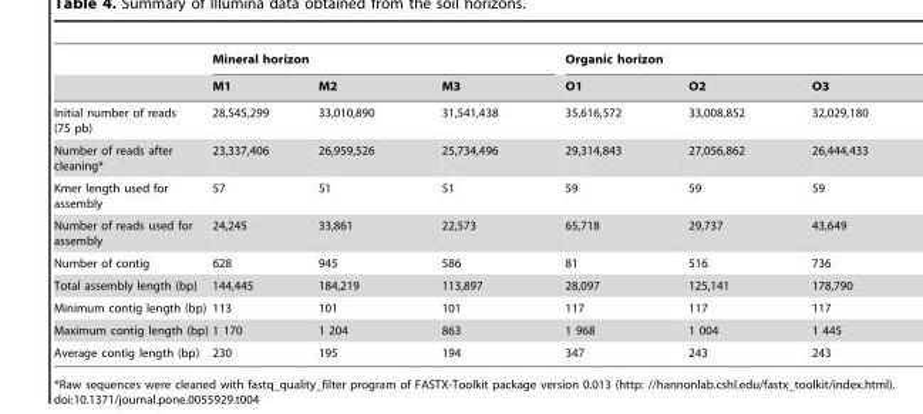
<table><thead><tr><td rowspan="2"></td><td colspan="3">Mineral horizon</td><td colspan="3">Organic horizon</td></tr><tr><td>M1</td><td>M2</td><td>M3</td><td>O1</td><td>O2</td><td>O3</td></tr></thead><tbody><tr><td>Initial number of reads (75 pb)</td><td>28,545,299</td><td>33,010,890</td><td>31,541,438</td><td>35,616,572</td><td>33,008,852</td><td>32,029,180</td></tr><tr><td>Number of reads after cleaning*</td><td>23,337,406</td><td>26,959,526</td><td>25,734,496</td><td>29,314,843</td><td>27,056,862</td><td>26,444,433</td></tr><tr><td>Kmer length used for assembly</td><td>57</td><td>51</td><td>51</td><td>59</td><td>59</td><td>59</td></tr><tr><td>Number of reads used for assembly</td><td>24,245</td><td>33,861</td><td>22,573</td><td>65,718</td><td>29,737</td><td>43,649</td></tr><tr><td>Number of contig</td><td>628</td><td>945</td><td>586</td><td>81</td><td>516</td><td>736</td></tr><tr><td>Total assembly length (bp)</td><td>144,445</td><td>184,219</td><td>113,897</td><td>28,097</td><td>125,141</td><td>178,790</td></tr><tr><td>Minimum contig length (bp)</td><td>113</td><td>101</td><td>101</td><td>117</td><td>117</td><td>117</td></tr><tr><td>Maximum contig length (bp)</td><td>1 170</td><td>1 204</td><td>863</td><td>1 968</td><td>1 004</td><td>1 445</td></tr><tr><td>Average contig length (bp)</td><td>230</td><td>195</td><td>194</td><td>347</td><td>243</td><td>243</td></tr></tbody></table>